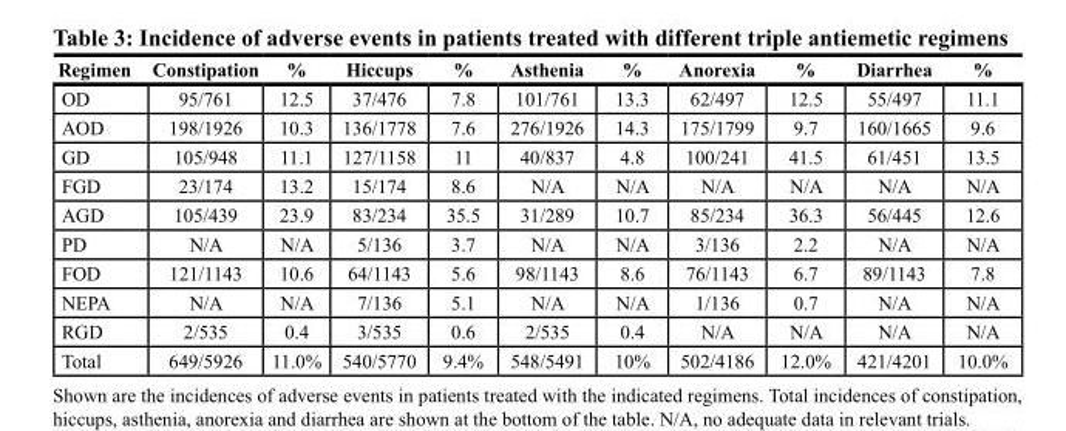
<table><thead><tr><td>Regimen</td><td>Constipation</td><td>%</td><td>Hiccups</td><td>%</td><td>Asthenia</td><td>%</td><td>Anorexia</td><td>%</td><td>Diarrhea</td><td>%</td></tr></thead><tbody><tr><td>OD</td><td>95/761</td><td>12.5</td><td>37/476</td><td>7.8</td><td>101/761</td><td>13.3</td><td>62/497</td><td>12.5</td><td>55/497</td><td>11.1</td></tr><tr><td>AOD</td><td>198/1926</td><td>10.3</td><td>136/1778</td><td>7.6</td><td>276/1926</td><td>14.3</td><td>175/1799</td><td>9.7</td><td>160/1665</td><td>9.6</td></tr><tr><td>GD</td><td>105/948</td><td>11.1</td><td>127/1158</td><td>11</td><td>40/837</td><td>4.8</td><td>100/241</td><td>41.5</td><td>61/451</td><td>13.5</td></tr><tr><td>FGD</td><td>23/174</td><td>13.2</td><td>15/174</td><td>8.6</td><td>N/A</td><td>N/A</td><td>N/A</td><td>N/A</td><td>N/A</td><td>N/A</td></tr><tr><td>AGD</td><td>105/439</td><td>23.9</td><td>83/234</td><td>35.5</td><td>31/289</td><td>10.7</td><td>85/234</td><td>36.3</td><td>56/445</td><td>12.6</td></tr><tr><td>PD</td><td>N/A</td><td>N/A</td><td>5/136</td><td>3.7</td><td>N/A</td><td>N/A</td><td>3/136</td><td>2.2</td><td>N/A</td><td>N/A</td></tr><tr><td>FOD</td><td>121/1143</td><td>10.6</td><td>64/1143</td><td>5.6</td><td>98/1143</td><td>8.6</td><td>76/1143</td><td>6.7</td><td>89/1143</td><td>7.8</td></tr><tr><td>NEPA</td><td>N/A</td><td>N/A</td><td>7/136</td><td>5.1</td><td>N/A</td><td>N/A</td><td>1/136</td><td>0.7</td><td>N/A</td><td>N/A</td></tr><tr><td>RGD</td><td>2/535</td><td>0.4</td><td>3/535</td><td>0.6</td><td>2/535</td><td>0.4</td><td>N/A</td><td>N/A</td><td>N/A</td><td>N/A</td></tr><tr><td>Total</td><td>649/5926</td><td>11.0%</td><td>540/5770</td><td>9.4%</td><td>548/5491</td><td>10%</td><td>502/4186</td><td>12.0%</td><td>421/4201</td><td>10.0%</td></tr></tbody></table>